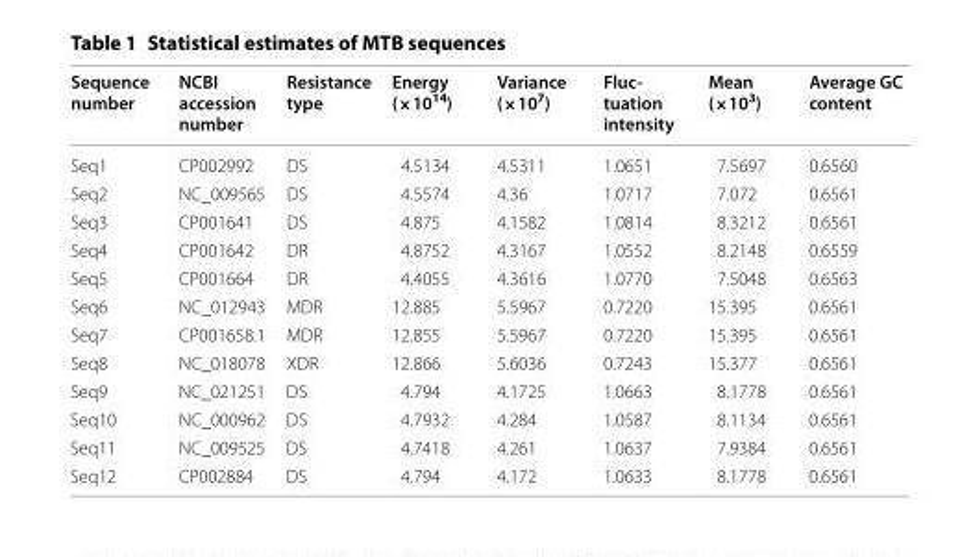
<table><thead><tr><td>Sequence number</td><td>NCBI accession number</td><td>Resistance type</td><td>Energy (×10<sup>14</sup>)</td><td>Variance (×10<sup>7</sup>)</td><td>Fluc- tuation intensity</td><td>Mean (×10<sup>3</sup>)</td><td>Average GC content</td></tr></thead><tbody><tr><td>Seq1</td><td>CP002992</td><td>DS</td><td>4.5134</td><td>4.5311</td><td>1.0651</td><td>7.5697</td><td>0.6560</td></tr><tr><td>Seq2</td><td>NC_009565</td><td>DS</td><td>4.5574</td><td>4.36</td><td>1.0717</td><td>7.072</td><td>0.6561</td></tr><tr><td>Seq3</td><td>CP001641</td><td>DS</td><td>4.875</td><td>4.1582</td><td>1.0814</td><td>8.3212</td><td>0.6561</td></tr><tr><td>Seq4</td><td>CP001642</td><td>DR</td><td>4.8752</td><td>4.3167</td><td>1.0552</td><td>8.2148</td><td>0.6559</td></tr><tr><td>Seq5</td><td>CP001664</td><td>DR</td><td>4.4055</td><td>4.3616</td><td>1.0770</td><td>7.5048</td><td>0.6563</td></tr><tr><td>Seq6</td><td>NC_012943</td><td>MDR</td><td>12.885</td><td>5.5967</td><td>0.7220</td><td>15.395</td><td>0.6561</td></tr><tr><td>Seq7</td><td>CP001658.1</td><td>MDR</td><td>12.855</td><td>5.5967</td><td>0.7220</td><td>15.395</td><td>0.6561</td></tr><tr><td>Seq8</td><td>NC_018078</td><td>XDR</td><td>12.866</td><td>5.6036</td><td>0.7243</td><td>15.377</td><td>0.6561</td></tr><tr><td>Seq9</td><td>NC_021251</td><td>DS</td><td>4.794</td><td>4.1725</td><td>1.0663</td><td>8.1778</td><td>0.6561</td></tr><tr><td>Seq10</td><td>NC_000962</td><td>DS</td><td>4.7932</td><td>4.284</td><td>1.0587</td><td>8.1134</td><td>0.6561</td></tr><tr><td>Seq11</td><td>NC_009525</td><td>DS</td><td>4.7418</td><td>4.261</td><td>1.0637</td><td>7.9384</td><td>0.6561</td></tr><tr><td>Seq12</td><td>CP002884</td><td>DS</td><td>4.794</td><td>4.172</td><td>1.0633</td><td>8.1778</td><td>0.6561</td></tr></tbody></table>